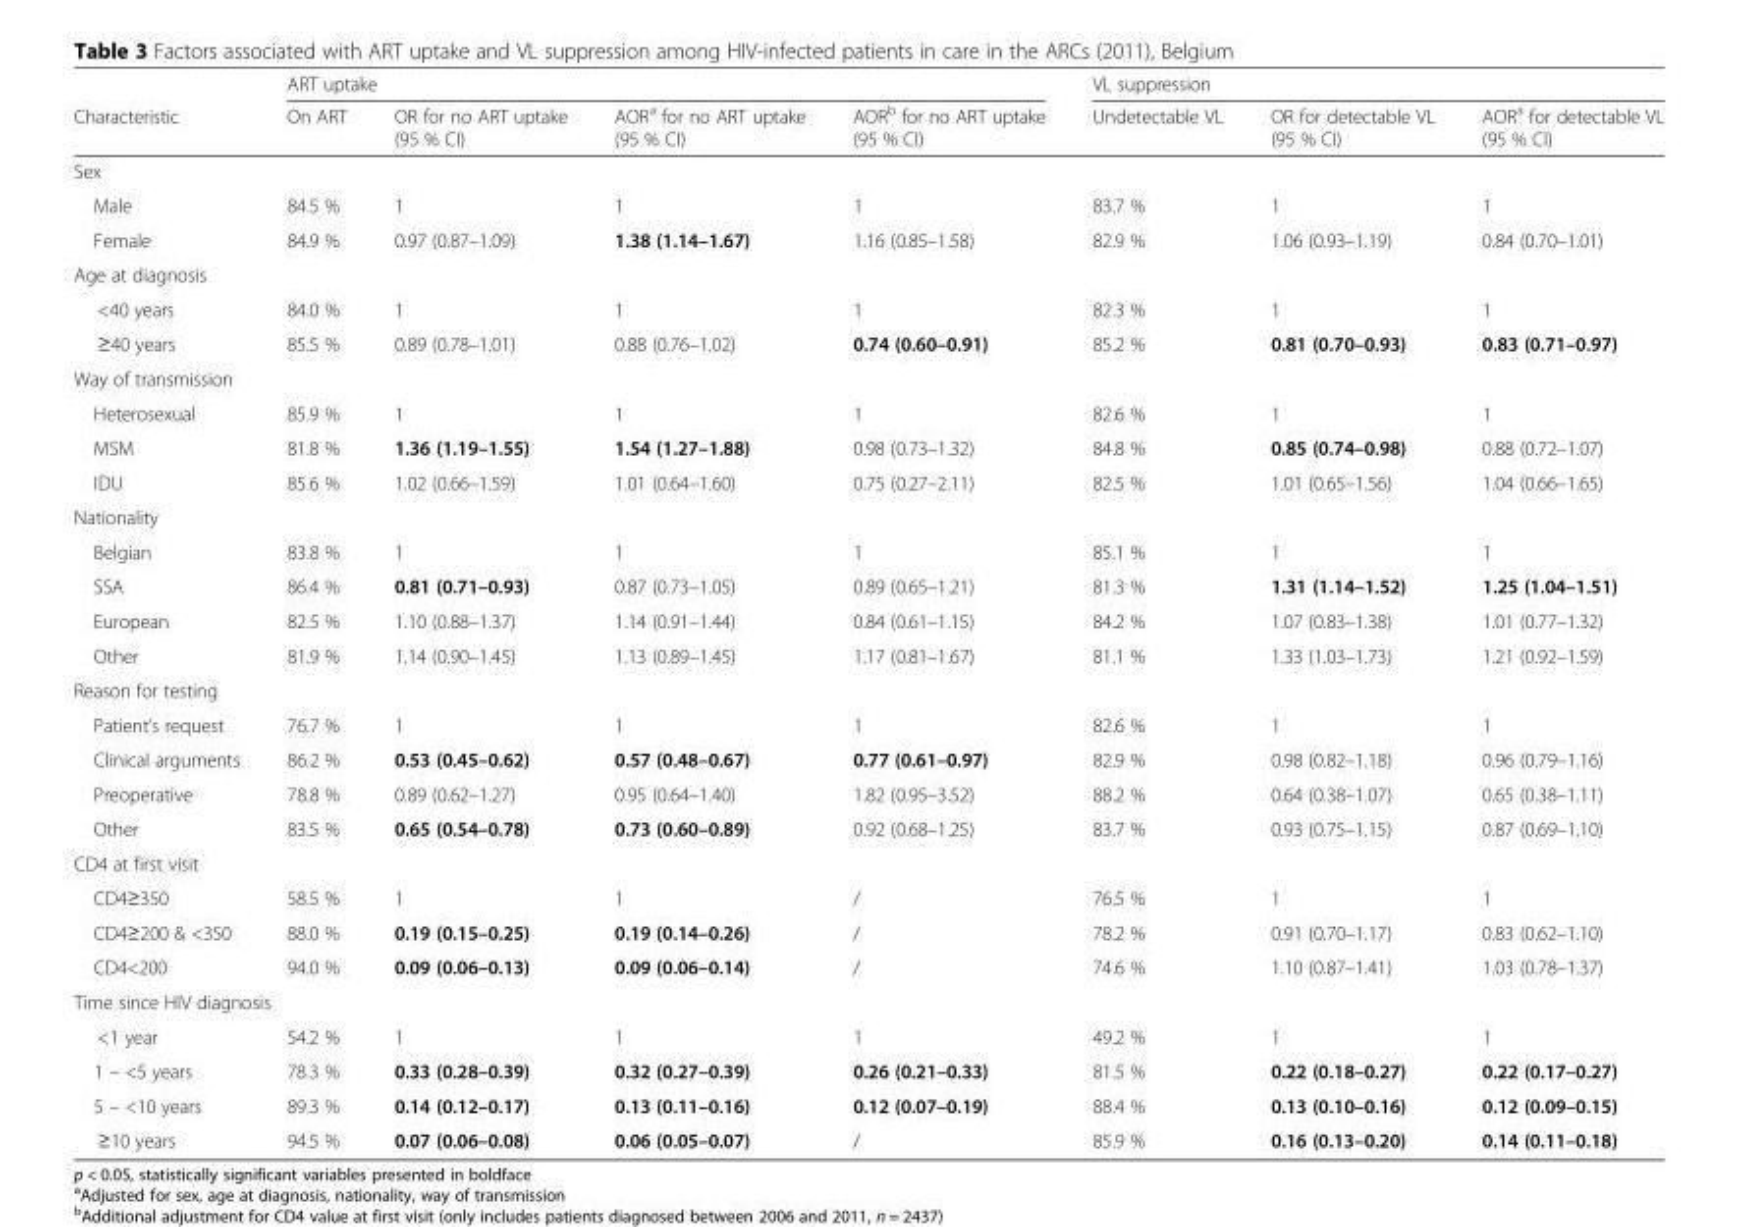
<table><thead><tr><td rowspan="2">Characteristic</td><td colspan="4">ART uptake</td><td colspan="3">VL suppression</td></tr><tr><td>On ART</td><td>OR for no ART uptake (95 % CI)</td><td>AOR<sup>a</sup> for no ART uptake (95 % CI)</td><td>AOR<sup>b</sup> for no ART uptake (95 % CI)</td><td>Undetectable VL</td><td>OR for detectable VL (95 % CI)</td><td>AOR<sup>a</sup> for detectable VL (95 % CI)</td></tr></thead><tbody><tr><td colspan="8">Sex</td></tr><tr><td>Male</td><td>84.5 %</td><td>1</td><td>1</td><td>1</td><td>83.7 %</td><td>1</td><td>1</td></tr><tr><td>Female</td><td>84.9 %</td><td>0.97 (0.87–1.09)</td><td>1.38 (1.14–1.67)</td><td>1.16 (0.85–1.58)</td><td>82.9 %</td><td>1.06 (0.93–1.19)</td><td>0.84 (0.70–1.01)</td></tr><tr><td colspan="8">Age at diagnosis</td></tr><tr><td>&lt;40 years</td><td>84.0 %</td><td>1</td><td>1</td><td>1</td><td>82.3 %</td><td>1</td><td>1</td></tr><tr><td>≥40 years</td><td>85.5 %</td><td>0.89 (0.78–1.01)</td><td>0.88 (0.76–1.02)</td><td>0.74 (0.60–0.91)</td><td>85.2 %</td><td>0.81 (0.70–0.93)</td><td>0.83 (0.71–0.97)</td></tr><tr><td colspan="8">Way of transmission</td></tr><tr><td>Heterosexual</td><td>85.9 %</td><td>1</td><td>1</td><td>1</td><td>82.6 %</td><td>1</td><td>1</td></tr><tr><td>MSM</td><td>81.8 %</td><td>1.36 (1.19–1.55)</td><td>1.54 (1.27–1.88)</td><td>0.98 (0.73–1.32)</td><td>84.8 %</td><td>0.85 (0.74–0.98)</td><td>0.88 (0.72–1.07)</td></tr><tr><td>IDU</td><td>85.6 %</td><td>1.02 (0.66–1.59)</td><td>1.01 (0.64–1.60)</td><td>0.75 (0.27–2.11)</td><td>82.5 %</td><td>1.01 (0.65–1.56)</td><td>1.04 (0.66–1.65)</td></tr><tr><td colspan="8">Nationality</td></tr><tr><td>Belgian</td><td>83.8 %</td><td>1</td><td>1</td><td>1</td><td>85.1 %</td><td>1</td><td>1</td></tr><tr><td>SSA</td><td>86.4 %</td><td>0.81 (0.71–0.93)</td><td>0.87 (0.73–1.05)</td><td>0.89 (0.65–1.21)</td><td>81.3 %</td><td>1.31 (1.14–1.52)</td><td>1.25 (1.04–1.51)</td></tr><tr><td>European</td><td>82.5 %</td><td>1.10 (0.88–1.37)</td><td>1.14 (0.91–1.44)</td><td>0.84 (0.61–1.15)</td><td>84.2 %</td><td>1.07 (0.83–1.38)</td><td>1.01 (0.77–1.32)</td></tr><tr><td>Other</td><td>81.9 %</td><td>1.14 (0.90–1.45)</td><td>1.13 (0.89–1.45)</td><td>1.17 (0.81–1.67)</td><td>81.1 %</td><td>1.33 (1.03–1.73)</td><td>1.21 (0.92–1.59)</td></tr><tr><td colspan="8">Reason for testing</td></tr><tr><td>Patient’s request</td><td>76.7 %</td><td>1</td><td>1</td><td>1</td><td>82.6 %</td><td>1</td><td>1</td></tr><tr><td>Clinical arguments</td><td>86.2 %</td><td>0.53 (0.45–0.62)</td><td>0.57 (0.48–0.67)</td><td>0.77 (0.61–0.97)</td><td>82.9 %</td><td>0.98 (0.82–1.18)</td><td>0.96 (0.79–1.16)</td></tr><tr><td>Preoperative</td><td>78.8 %</td><td>0.89 (0.62–1.27)</td><td>0.95 (0.64–1.40)</td><td>1.82 (0.95–3.52)</td><td>88.2 %</td><td>0.64 (0.38–1.07)</td><td>0.65 (0.38–1.11)</td></tr><tr><td>Other</td><td>83.5 %</td><td>0.65 (0.54–0.78)</td><td>0.73 (0.60–0.89)</td><td>0.92 (0.68–1.25)</td><td>83.7 %</td><td>0.93 (0.75–1.15)</td><td>0.87 (0.69–1.10)</td></tr><tr><td colspan="8">CD4 at first visit</td></tr><tr><td>CD4≥350</td><td>58.5 %</td><td>1</td><td>1</td><td>/</td><td>76.5 %</td><td>1</td><td>1</td></tr><tr><td>CD4≥200 &amp; &lt;350</td><td>88.0 %</td><td>0.19 (0.15–0.25)</td><td>0.19 (0.14–0.26)</td><td>/</td><td>78.2 %</td><td>0.91 (0.70–1.17)</td><td>0.83 (0.62–1.10)</td></tr><tr><td>CD4&lt;200</td><td>94.0 %</td><td>0.09 (0.06–0.13)</td><td>0.09 (0.06–0.14)</td><td>/</td><td>74.6 %</td><td>1.10 (0.87–1.41)</td><td>1.03 (0.78–1.37)</td></tr><tr><td colspan="8">Time since HIV diagnosis</td></tr><tr><td>&lt;1 year</td><td>54.2 %</td><td>1</td><td>1</td><td>1</td><td>49.2 %</td><td>1</td><td>1</td></tr><tr><td>1 – &lt;5 years</td><td>78.3 %</td><td>0.33 (0.28–0.39)</td><td>0.32 (0.27–0.39)</td><td>0.26 (0.21–0.33)</td><td>81.5 %</td><td>0.22 (0.18–0.27)</td><td>0.22 (0.17–0.27)</td></tr><tr><td>5 – &lt;10 years</td><td>89.3 %</td><td>0.14 (0.12–0.17)</td><td>0.13 (0.11–0.16)</td><td>0.12 (0.07–0.19)</td><td>88.4 %</td><td>0.13 (0.10–0.16)</td><td>0.12 (0.09–0.15)</td></tr><tr><td>≥10 years</td><td>94.5 %</td><td>0.07 (0.06–0.08)</td><td>0.06 (0.05–0.07)</td><td>/</td><td>85.9 %</td><td>0.16 (0.13–0.20)</td><td>0.14 (0.11–0.18)</td></tr></tbody></table>